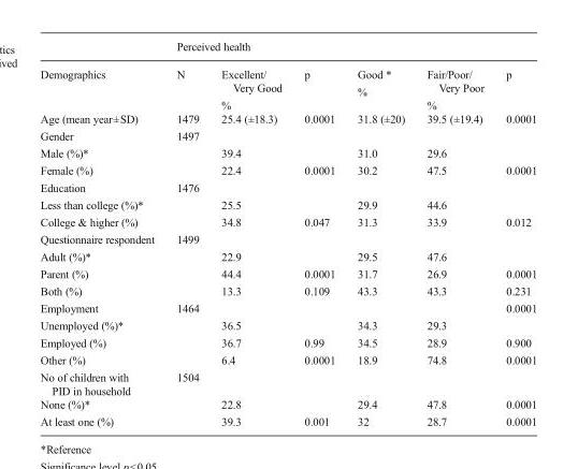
<table><thead><tr><td rowspan="2">Demographics</td><td colspan="6">Perceived health</td></tr><tr><td>N</td><td>Excellent/ Very Good %</td><td>p</td><td>Good * %</td><td>Fair/Poor/ Very Poor %</td><td>p</td></tr></thead><tbody><tr><td>Age (mean year±SD)</td><td>1479</td><td>25.4 (±18.3)</td><td>0.0001</td><td>31.8 (±20)</td><td>39.5 (±19.4)</td><td>0.0001</td></tr><tr><td>Gender</td><td>1497</td><td></td><td></td><td></td><td></td><td></td></tr><tr><td>Male (%)*</td><td></td><td>39.4</td><td></td><td>31.0</td><td>29.6</td><td></td></tr><tr><td>Female (%)</td><td></td><td>22.4</td><td>0.0001</td><td>30.2</td><td>47.5</td><td>0.0001</td></tr><tr><td>Education</td><td>1476</td><td></td><td></td><td></td><td></td><td></td></tr><tr><td>Less than college (%)*</td><td></td><td>25.5</td><td></td><td>29.9</td><td>44.6</td><td></td></tr><tr><td>College &amp; higher (%)</td><td></td><td>34.8</td><td>0.047</td><td>31.3</td><td>33.9</td><td>0.012</td></tr><tr><td>Questionnaire respondent</td><td>1499</td><td></td><td></td><td></td><td></td><td></td></tr><tr><td>Adult (%)*</td><td></td><td>22.9</td><td></td><td>29.5</td><td>47.6</td><td></td></tr><tr><td>Parent (%)</td><td></td><td>44.4</td><td>0.0001</td><td>31.7</td><td>26.9</td><td>0.0001</td></tr><tr><td>Both (%)</td><td></td><td>13.3</td><td>0.109</td><td>43.3</td><td>43.3</td><td>0.231</td></tr><tr><td>Employment</td><td>1464</td><td></td><td></td><td></td><td></td><td>0.0001</td></tr><tr><td>Unemployed (%)*</td><td></td><td>36.5</td><td></td><td>34.3</td><td>29.3</td><td></td></tr><tr><td>Employed (%)</td><td></td><td>36.7</td><td>0.99</td><td>34.5</td><td>28.9</td><td>0.900</td></tr><tr><td>Other (%)</td><td></td><td>6.4</td><td>0.0001</td><td>18.9</td><td>74.8</td><td>0.0001</td></tr><tr><td>No of children with PID in household</td><td>1504</td><td></td><td></td><td></td><td></td><td></td></tr><tr><td>None (%)*</td><td></td><td>22.8</td><td></td><td>29.4</td><td>47.8</td><td>0.0001</td></tr><tr><td>At least one (%)</td><td></td><td>39.3</td><td>0.001</td><td>32</td><td>28.7</td><td>0.0001</td></tr></tbody></table>